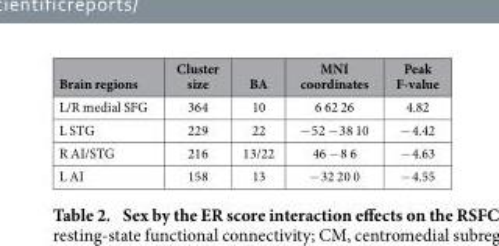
<table><thead><tr><td>Brain regions</td><td>Cluster size</td><td>BA</td><td>MNI coordinates</td><td>Peak F-value</td></tr></thead><tbody><tr><td>L/R medial SFG</td><td>364</td><td>10</td><td>6 62 26</td><td>4.82</td></tr><tr><td>L STG</td><td>229</td><td>22</td><td>− 52 − 38 10</td><td>− 4.42</td></tr><tr><td>R AI/STG</td><td>216</td><td>13/22</td><td>46 − 8 6</td><td>− 4.63</td></tr><tr><td>L AI</td><td>158</td><td>13</td><td>− 32 20 0</td><td>− 4.55</td></tr></tbody></table>